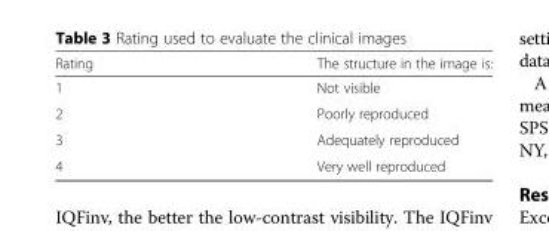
<table><thead><tr><td>Rating</td><td>The structure in the image is:</td></tr></thead><tbody><tr><td>1</td><td>Not visible</td></tr><tr><td>2</td><td>Poorly reproduced</td></tr><tr><td>3</td><td>Adequately reproduced</td></tr><tr><td>4</td><td>Very well reproduced</td></tr></tbody></table>